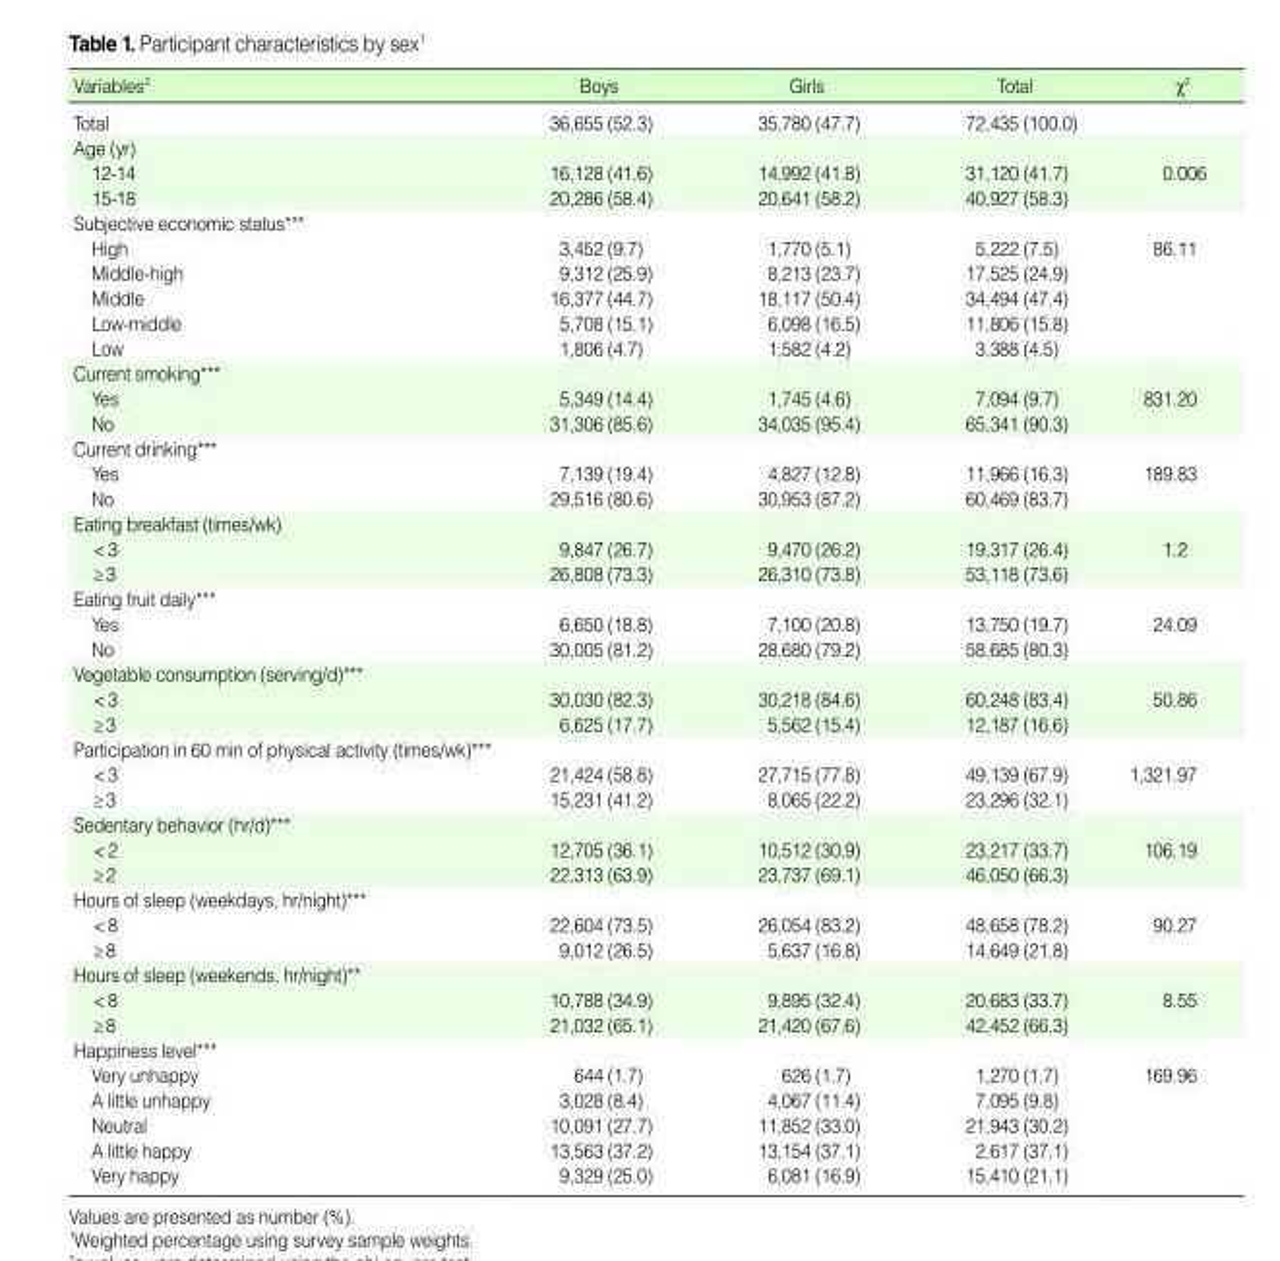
<table><thead><tr><td>Variables<sup>2</sup></td><td>Boys</td><td>Girls</td><td>Total</td><td>χ2</td></tr></thead><tbody><tr><td>Total</td><td>36,655 (52.3)</td><td>35,780 (47.7)</td><td>72,435 (100.0)</td><td></td></tr><tr><td colspan="5">Age (yr)</td></tr><tr><td>12-14</td><td>16,128 (41.6)</td><td>14,992 (41.8)</td><td>31,120 (41.7)</td><td>0.006</td></tr><tr><td>15-18</td><td>20,286 (58.4)</td><td>20,641 (58.2)</td><td>40,927 (58.3)</td><td></td></tr><tr><td colspan="5">Subjective economic status***</td></tr><tr><td>High</td><td>3,452 (9.7)</td><td>1,770 (5.1)</td><td>5,222 (7.5)</td><td>86.11</td></tr><tr><td>Middle-high</td><td>9,312 (25.9)</td><td>8,213 (23.7)</td><td>17,525 (24.9)</td><td></td></tr><tr><td>Middle</td><td>16,377 (44.7)</td><td>18,117 (50.4)</td><td>34,494 (47.4)</td><td></td></tr><tr><td>Low-middle</td><td>5,708 (15.1)</td><td>6,098 (16.5)</td><td>11,806 (15.8)</td><td></td></tr><tr><td>Low</td><td>1,806 (4.7)</td><td>1,582 (4.2)</td><td>3,388 (4.5)</td><td></td></tr><tr><td colspan="5">Current smoking***</td></tr><tr><td>Yes</td><td>5,349 (14.4)</td><td>1,745 (4.6)</td><td>7,094 (9.7)</td><td>831.20</td></tr><tr><td>No</td><td>31,306 (85.6)</td><td>34,035 (95.4)</td><td>65,341 (90.3)</td><td></td></tr><tr><td colspan="5">Current drinking***</td></tr><tr><td>Yes</td><td>7,139 (19.4)</td><td>4,827 (12.8)</td><td>11,966 (16.3)</td><td>189.83</td></tr><tr><td>No</td><td>29,516 (80.6)</td><td>30,953 (87.2)</td><td>60,469 (83.7)</td><td></td></tr><tr><td colspan="5">Eating breakfast (times/wk)</td></tr><tr><td>&lt;3</td><td>9,847 (26.7)</td><td>9,470 (26.2)</td><td>19,317 (26.4)</td><td>1.2</td></tr><tr><td>≥3</td><td>26,808 (73.3)</td><td>26,310 (73.8)</td><td>53,118 (73.6)</td><td></td></tr><tr><td colspan="5">Eating fruit daily***</td></tr><tr><td>Yes</td><td>6,650 (18.8)</td><td>7,100 (20.8)</td><td>13,750 (19.7)</td><td>24.09</td></tr><tr><td>No</td><td>30,005 (81.2)</td><td>28,680 (79.2)</td><td>58,685 (80.3)</td><td></td></tr><tr><td colspan="5">Vegetable consumption (serving/d)***</td></tr><tr><td>&lt;3</td><td>30,030 (82.3)</td><td>30,218 (84.6)</td><td>60,248 (83.4)</td><td>50.86</td></tr><tr><td>≥3</td><td>6,625 (17.7)</td><td>5,562 (15.4)</td><td>12,187 (16.6)</td><td></td></tr><tr><td colspan="5">Participation in 60 min of physical activity (times/wk)***</td></tr><tr><td>&lt;3</td><td>21,424 (58.8)</td><td>27,715 (77.8)</td><td>49,139 (67.9)</td><td>1,321.97</td></tr><tr><td>≥3</td><td>15,231 (41.2)</td><td>8,065 (22.2)</td><td>23,296 (32.1)</td><td></td></tr><tr><td colspan="5">Sedentary behavior (hr/d)***</td></tr><tr><td>&lt;2</td><td>12,705 (36.1)</td><td>10,512 (30.9)</td><td>23,217 (33.7)</td><td>106.19</td></tr><tr><td>≥2</td><td>22,313 (63.9)</td><td>23,737 (69.1)</td><td>46,050 (66.3)</td><td></td></tr><tr><td colspan="5">Hours of sleep (weekdays, hr/night)***</td></tr><tr><td>&lt;8</td><td>22,604 (73.5)</td><td>26,054 (83.2)</td><td>48,658 (78.2)</td><td>90.27</td></tr><tr><td>≥8</td><td>9,012 (26.5)</td><td>5,637 (16.8)</td><td>14,649 (21.8)</td><td></td></tr><tr><td colspan="5">Hours of sleep (weekends, hr/night)**</td></tr><tr><td>&lt;8</td><td>10,788 (34.9)</td><td>9,895 (32.4)</td><td>20,683 (33.7)</td><td>8.55</td></tr><tr><td>≥8</td><td>21,032 (65.1)</td><td>21,420 (67.6)</td><td>42,452 (66.3)</td><td></td></tr><tr><td colspan="5">Happiness level***</td></tr><tr><td>Very unhappy</td><td>644 (1.7)</td><td>626 (1.7)</td><td>1,270 (1.7)</td><td>169.96</td></tr><tr><td>A little unhappy</td><td>3,028 (8.4)</td><td>4,067 (11.4)</td><td>7,095 (9.8)</td><td></td></tr><tr><td>Neutral</td><td>10,091 (27.7)</td><td>11,852 (33.0)</td><td>21,943 (30.2)</td><td></td></tr><tr><td>A little happy</td><td>13,563 (37.2)</td><td>13,154 (37.1)</td><td>2,617 (37.1)</td><td></td></tr><tr><td>Very happy</td><td>9,329 (25.0)</td><td>6,081 (16.9)</td><td>15,410 (21.1)</td><td></td></tr></tbody></table>